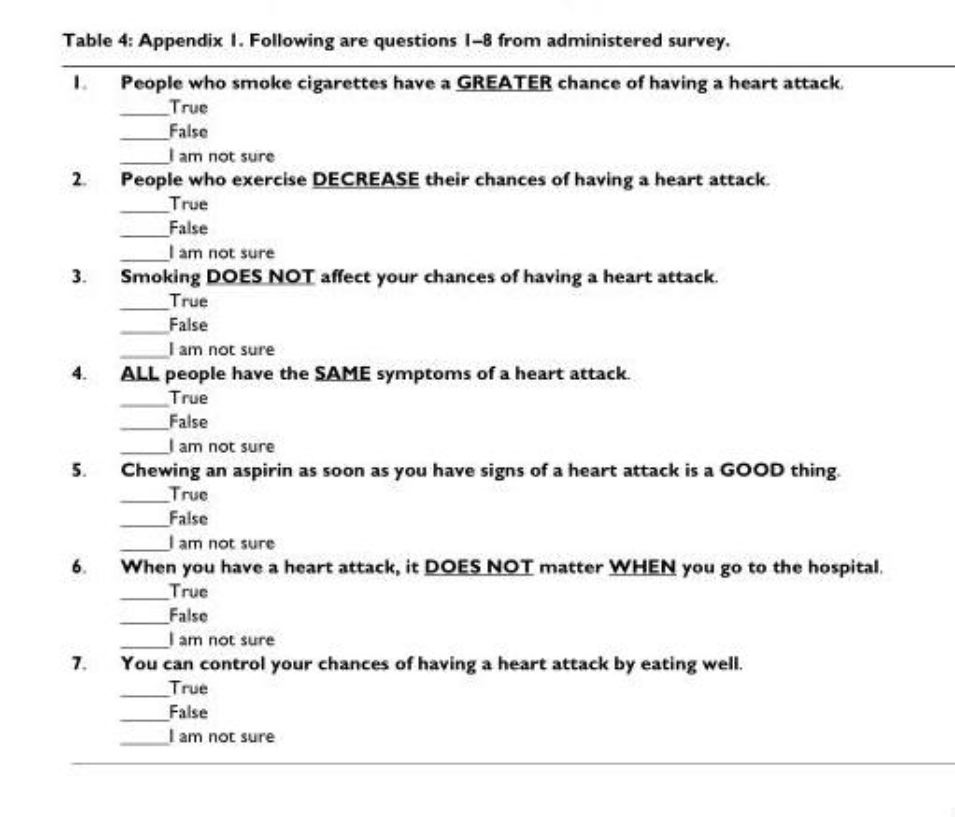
<table><tbody><tr><td rowspan="4">1.</td><td>People who smoke cigarettes have a GREATER chance of having a heart attack.</td></tr><tr><td>_____True</td></tr><tr><td>_____False</td></tr><tr><td>_____I am not sure</td></tr><tr><td rowspan="4">2.</td><td>People who exercise DECREASE their chances of having a heart attack.</td></tr><tr><td>_____True</td></tr><tr><td>_____False</td></tr><tr><td>_____I am not sure</td></tr><tr><td rowspan="4">3.</td><td>Smoking DOES NOT affect your chances of having a heart attack.</td></tr><tr><td>_____True</td></tr><tr><td>_____False</td></tr><tr><td>_____I am not sure</td></tr><tr><td rowspan="4">4.</td><td>ALL people have the SAME symptoms of a heart attack.</td></tr><tr><td>_____True</td></tr><tr><td>_____False</td></tr><tr><td>_____I am not sure</td></tr><tr><td rowspan="4">5.</td><td>Chewing an aspirin as soon as you have signs of a heart attack is a GOOD thing.</td></tr><tr><td>_____True</td></tr><tr><td>_____False</td></tr><tr><td>_____I am not sure</td></tr><tr><td rowspan="4">6.</td><td>When you have a heart attack, it DOES NOT matter WHEN you go to the hospital.</td></tr><tr><td>_____True</td></tr><tr><td>_____False</td></tr><tr><td>_____I am not sure</td></tr><tr><td rowspan="4">7.</td><td>You can control your chances of having a heart attack by eating well.</td></tr><tr><td>_____True</td></tr><tr><td>_____False</td></tr><tr><td>_____I am not sure</td></tr></tbody></table>